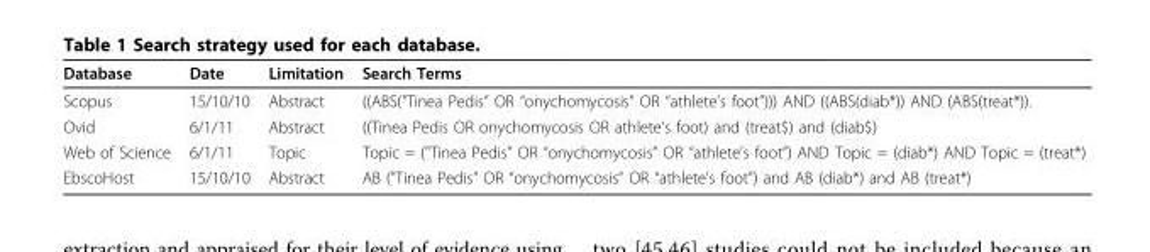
<table><thead><tr><td>Database</td><td>Date</td><td>Limitation</td><td>Search Terms</td></tr></thead><tbody><tr><td>Scopus</td><td>15/10/10</td><td>Abstract</td><td>((ABS(&quot;Tinea Pedis” OR “onychomycosis” OR “athlete’s foot”))) AND ((ABS(diab*)) AND (ABS(treat*)).</td></tr><tr><td>Ovid</td><td>6/1/11</td><td>Abstract</td><td>((Tinea Pedis OR onychomycosis OR athlete’s foot) and (treat$) and (diab$)</td></tr><tr><td>Web of Science</td><td>6/1/11</td><td>Topic</td><td>Topic = (&quot;Tinea Pedis” OR “onychomycosis” OR “athlete’s foot”) AND Topic = (diab*) AND Topic = (treat*)</td></tr><tr><td>EbscoHost</td><td>15/10/10</td><td>Abstract</td><td>AB (&quot;Tinea Pedis” OR “onychomycosis” OR “athlete’s foot”) and AB (diab*) and AB (treat*)</td></tr></tbody></table>